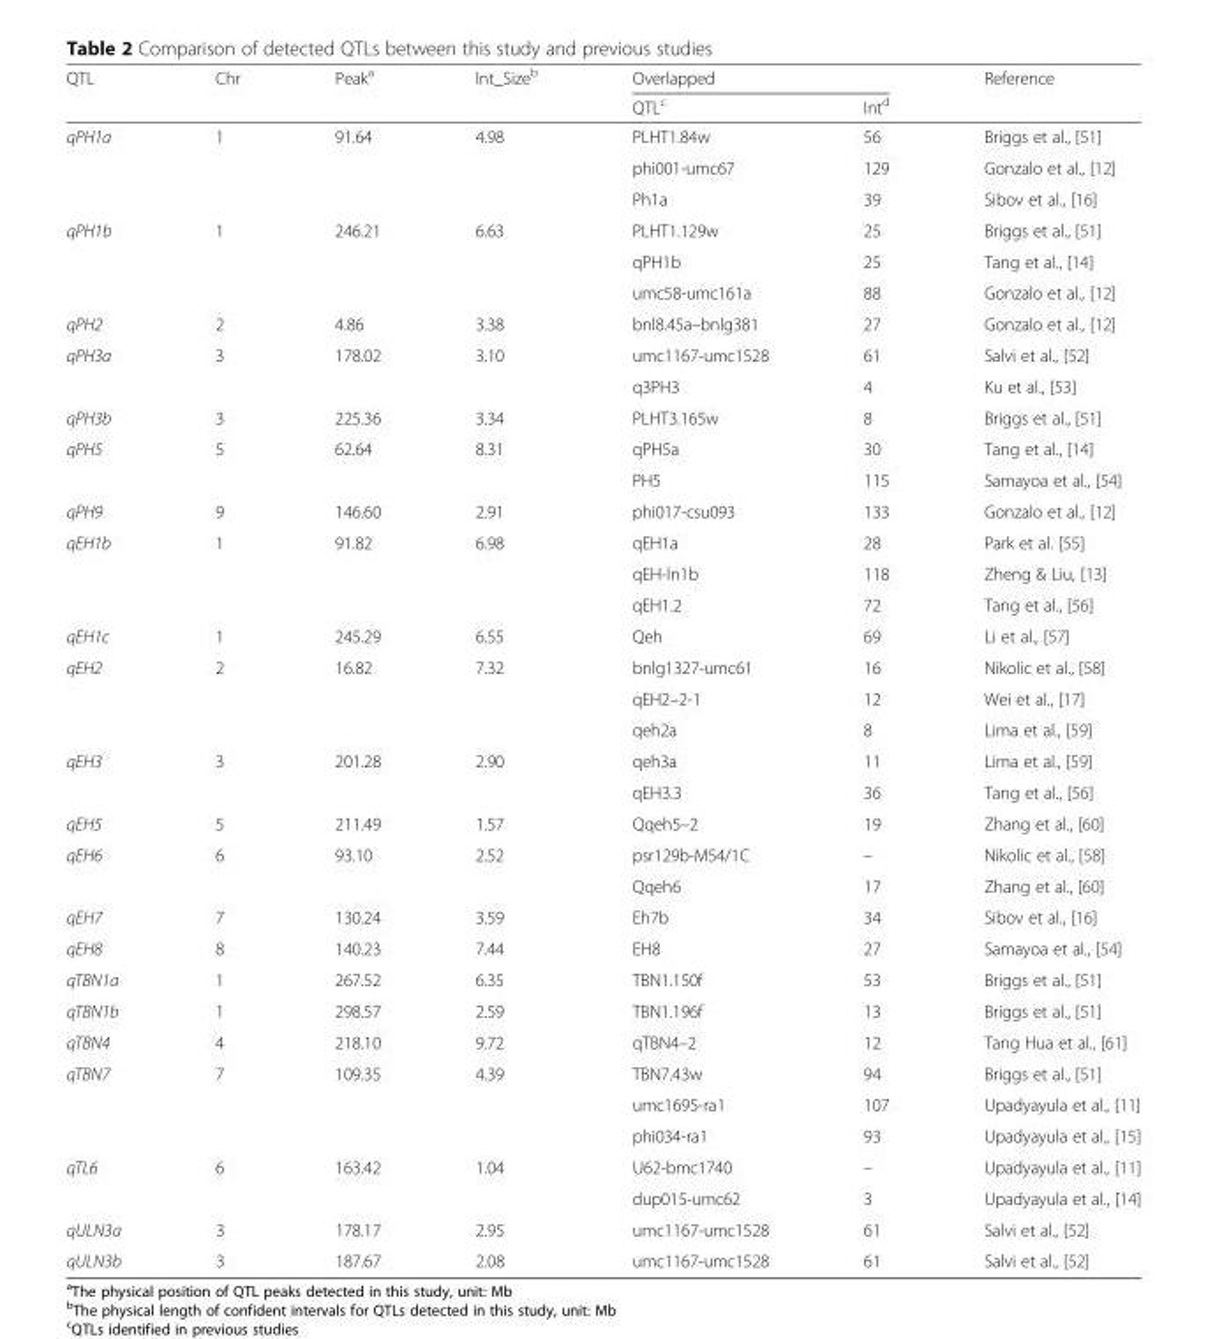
<table><thead><tr><td rowspan="2">QTL</td><td rowspan="2">Chr</td><td rowspan="2">Peak<sup>a</sup></td><td rowspan="2">Int_Size<sup>b</sup></td><td colspan="2">Overlapped</td><td rowspan="2">Reference</td></tr><tr><td>QTL<sup>c</sup></td><td>Int<sup>d</sup></td></tr></thead><tbody><tr><td rowspan="3">qPH1a</td><td rowspan="3">1</td><td rowspan="3">91.64</td><td rowspan="3">4.98</td><td>PLHT1.84w</td><td>56</td><td>Briggs et al., [51]</td></tr><tr><td>phi001-umc67</td><td>129</td><td>Gonzalo et al., [12]</td></tr><tr><td>Ph1a</td><td>39</td><td>Sibov et al., [16]</td></tr><tr><td rowspan="3">qPH1b</td><td rowspan="3">1</td><td rowspan="3">246.21</td><td rowspan="3">6.63</td><td>PLHT1.129w</td><td>25</td><td>Briggs et al., [51]</td></tr><tr><td>qPH1b</td><td>25</td><td>Tang et al., [14]</td></tr><tr><td>umc58-umc161a</td><td>88</td><td>Gonzalo et al., [12]</td></tr><tr><td>qPH2</td><td>2</td><td>4.86</td><td>3.38</td><td>bnl8.45a–bnlg381</td><td>27</td><td>Gonzalo et al., [12]</td></tr><tr><td rowspan="2">qPH3a</td><td rowspan="2">3</td><td rowspan="2">178.02</td><td rowspan="2">3.10</td><td>umc1167-umc1528</td><td>61</td><td>Salvi et al., [52]</td></tr><tr><td>q3PH3</td><td>4</td><td>Ku et al., [53]</td></tr><tr><td>qPH3b</td><td>3</td><td>225.36</td><td>3.34</td><td>PLHT3.165w</td><td>8</td><td>Briggs et al., [51]</td></tr><tr><td rowspan="2">qPH5</td><td rowspan="2">5</td><td rowspan="2">62.64</td><td rowspan="2">8.31</td><td>qPH5a</td><td>30</td><td>Tang et al., [14]</td></tr><tr><td>PH5</td><td>115</td><td>Samayoa et al., [54]</td></tr><tr><td>qPH9</td><td>9</td><td>146.60</td><td>2.91</td><td>phi017-csu093</td><td>133</td><td>Gonzalo et al., [12]</td></tr><tr><td rowspan="3">qEH1b</td><td rowspan="3">1</td><td rowspan="3">91.82</td><td rowspan="3">6.98</td><td>qEH1a</td><td>28</td><td>Park et al. [55]</td></tr><tr><td>qEH-ln1b</td><td>118</td><td>Zheng &amp; Liu, [13]</td></tr><tr><td>qEH1.2</td><td>72</td><td>Tang et al., [56]</td></tr><tr><td>qEH1c</td><td>1</td><td>245.29</td><td>6.55</td><td>Qeh</td><td>69</td><td>Li et al., [57]</td></tr><tr><td rowspan="3">qEH2</td><td rowspan="3">2</td><td rowspan="3">16.82</td><td rowspan="3">7.32</td><td>bnlg1327-umc61</td><td>16</td><td>Nikolic et al., [58]</td></tr><tr><td>qEH2–2-1</td><td>12</td><td>Wei et al., [17]</td></tr><tr><td>qeh2a</td><td>8</td><td>Lima et al., [59]</td></tr><tr><td rowspan="2">qEH3</td><td rowspan="2">3</td><td rowspan="2">201.28</td><td rowspan="2">2.90</td><td>qeh3a</td><td>11</td><td>Lima et al., [59]</td></tr><tr><td>qEH3.3</td><td>36</td><td>Tang et al., [56]</td></tr><tr><td>qEH5</td><td>5</td><td>211.49</td><td>1.57</td><td>Qqeh5–2</td><td>19</td><td>Zhang et al., [60]</td></tr><tr><td rowspan="2">qEH6</td><td rowspan="2">6</td><td rowspan="2">93.10</td><td rowspan="2">2.52</td><td>psr129b-M54/1C</td><td>–</td><td>Nikolic et al., [58]</td></tr><tr><td>Qqeh6</td><td>17</td><td>Zhang et al., [60]</td></tr><tr><td>qEH7</td><td>7</td><td>130.24</td><td>3.59</td><td>Eh7b</td><td>34</td><td>Sibov et al., [16]</td></tr><tr><td>qEH8</td><td>8</td><td>140.23</td><td>7.44</td><td>EH8</td><td>27</td><td>Samayoa et al., [54]</td></tr><tr><td>qTBN1a</td><td>1</td><td>267.52</td><td>6.35</td><td>TBN1.150f</td><td>53</td><td>Briggs et al., [51]</td></tr><tr><td>qTBN1b</td><td>1</td><td>298.57</td><td>2.59</td><td>TBN1.196f</td><td>13</td><td>Briggs et al., [51]</td></tr><tr><td>qTBN4</td><td>4</td><td>218.10</td><td>9.72</td><td>qTBN4–2</td><td>12</td><td>Tang Hua et al., [61]</td></tr><tr><td rowspan="3">qTBN7</td><td rowspan="3">7</td><td rowspan="3">109.35</td><td rowspan="3">4.39</td><td>TBN7.43w</td><td>94</td><td>Briggs et al., [51]</td></tr><tr><td>umc1695-ra1</td><td>107</td><td>Upadyayula et al., [11]</td></tr><tr><td>phi034-ra1</td><td>93</td><td>Upadyayula et al., [15]</td></tr><tr><td rowspan="2">qTL6</td><td rowspan="2">6</td><td rowspan="2">163.42</td><td rowspan="2">1.04</td><td>U62-bmc1740</td><td>–</td><td>Upadyayula et al., [11]</td></tr><tr><td>dup015-umc62</td><td>3</td><td>Upadyayula et al., [14]</td></tr><tr><td>qULN3a</td><td>3</td><td>178.17</td><td>2.95</td><td>umc1167-umc1528</td><td>61</td><td>Salvi et al., [52]</td></tr><tr><td>qULN3b</td><td>3</td><td>187.67</td><td>2.08</td><td>umc1167-umc1528</td><td>61</td><td>Salvi et al., [52]</td></tr></tbody></table>